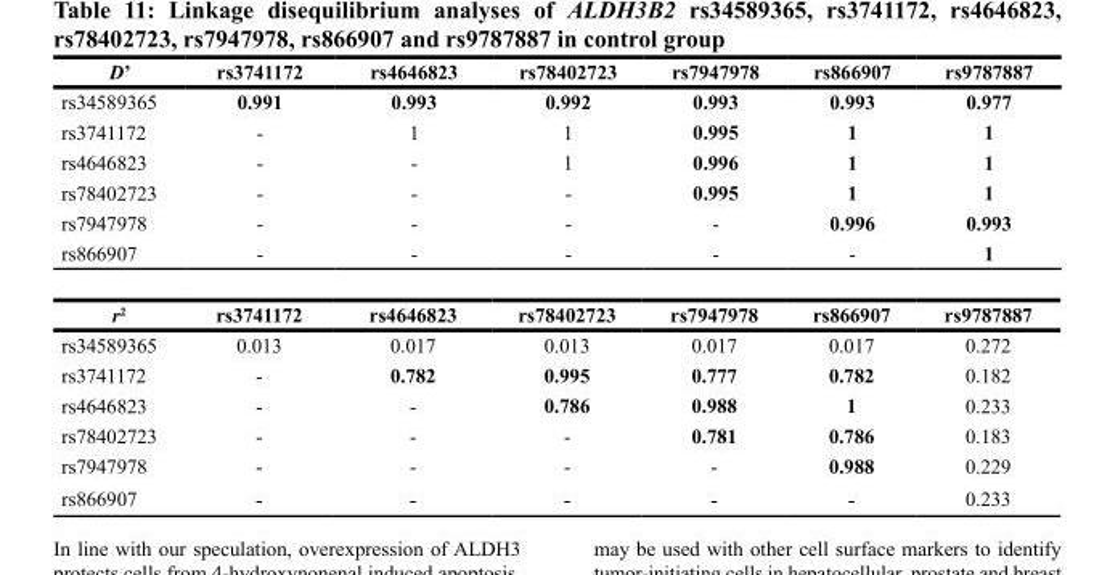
<table><thead><tr><td>D’</td><td>rs3741172</td><td>rs4646823</td><td>rs78402723</td><td>rs7947978</td><td>rs866907</td><td>rs9787887</td></tr></thead><tbody><tr><td>rs34589365</td><td>0.991</td><td>0.993</td><td>0.992</td><td>0.993</td><td>0.993</td><td>0.977</td></tr><tr><td>rs3741172</td><td>-</td><td>1</td><td>1</td><td>0.995</td><td>1</td><td>1</td></tr><tr><td>rs4646823</td><td>-</td><td>-</td><td>1</td><td>0.996</td><td>1</td><td>1</td></tr><tr><td>rs78402723</td><td>-</td><td>-</td><td>-</td><td>0.995</td><td>1</td><td>1</td></tr><tr><td>rs7947978</td><td>-</td><td>-</td><td>-</td><td>-</td><td>0.996</td><td>0.993</td></tr><tr><td>rs866907</td><td>-</td><td>-</td><td>-</td><td>-</td><td>-</td><td>1</td></tr><tr><td>r<sup>2</sup></td><td>rs3741172</td><td>rs4646823</td><td>rs78402723</td><td>rs7947978</td><td>rs866907</td><td>rs9787887</td></tr><tr><td>rs34589365</td><td>0.013</td><td>0.017</td><td>0.013</td><td>0.017</td><td>0.017</td><td>0.272</td></tr><tr><td>rs3741172</td><td>-</td><td>0.782</td><td>0.995</td><td>0.777</td><td>0.782</td><td>0.182</td></tr><tr><td>rs4646823</td><td>-</td><td>-</td><td>0.786</td><td>0.988</td><td>1</td><td>0.233</td></tr><tr><td>rs78402723</td><td>-</td><td>-</td><td>-</td><td>0.781</td><td>0.786</td><td>0.183</td></tr><tr><td>rs7947978</td><td>-</td><td>-</td><td>-</td><td>-</td><td>0.988</td><td>0.229</td></tr><tr><td>rs866907</td><td>-</td><td>-</td><td>-</td><td>-</td><td>-</td><td>0.233</td></tr></tbody></table>